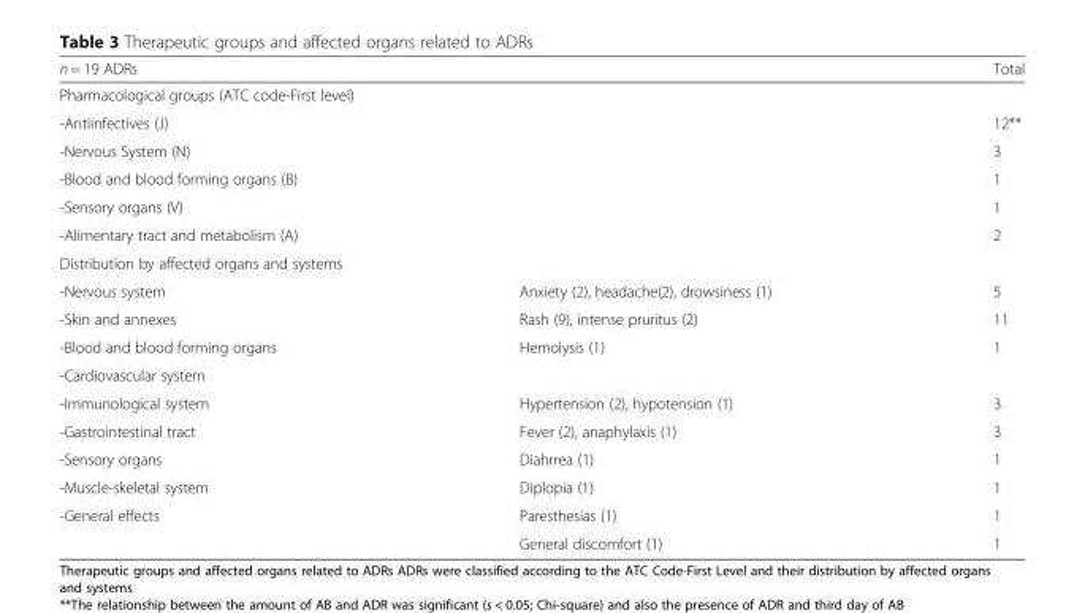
<table><thead><tr><td>n = 19 ADRs</td><td></td><td>Total</td></tr></thead><tbody><tr><td colspan="3">Pharmacological groups (ATC code-First level)</td></tr><tr><td>-Antiinfectives (J)</td><td></td><td>12**</td></tr><tr><td>-Nervous System (N)</td><td></td><td>3</td></tr><tr><td>-Blood and blood forming organs (B)</td><td></td><td>1</td></tr><tr><td>-Sensory organs (V)</td><td></td><td>1</td></tr><tr><td>-Alimentary tract and metabolism (A)</td><td></td><td>2</td></tr><tr><td colspan="3">Distribution by affected organs and systems</td></tr><tr><td>-Nervous system</td><td>Anxiety (2), headache(2), drowsiness (1)</td><td>5</td></tr><tr><td>-Skin and annexes</td><td>Rash (9), intense pruritus (2)</td><td>11</td></tr><tr><td>-Blood and blood forming organs</td><td>Hemolysis (1)</td><td>1</td></tr><tr><td colspan="3">-Cardiovascular system</td></tr><tr><td>-Immunological system</td><td>Hypertension (2), hypotension (1)</td><td>3</td></tr><tr><td>-Gastrointestinal tract</td><td>Fever (2), anaphylaxis (1)</td><td>3</td></tr><tr><td>-Sensory organs</td><td>Diahrrea (1)</td><td>1</td></tr><tr><td>-Muscle-skeletal system</td><td>Diplopia (1)</td><td>1</td></tr><tr><td rowspan="2">-General effects</td><td>Paresthesias (1)</td><td>1</td></tr><tr><td>General discomfort (1)</td><td>1</td></tr></tbody></table>